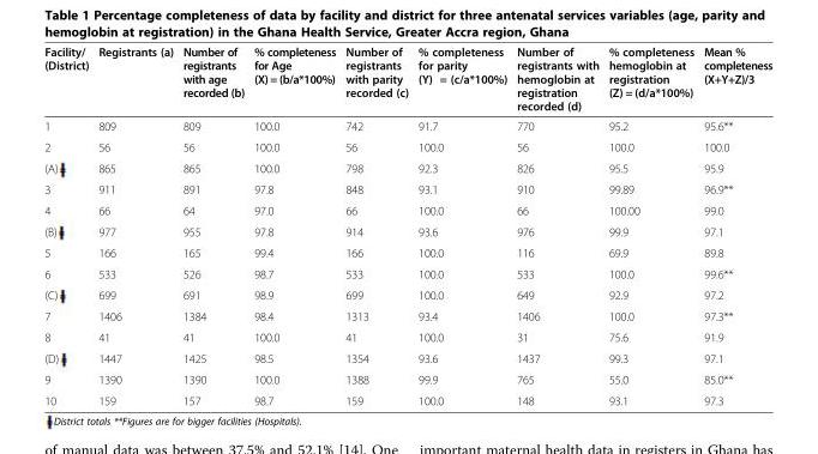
<table><thead><tr><td>Facility/ (District)</td><td>Registrants (a)</td><td>Number of registrants with age recorded (b)</td><td>% completeness for Age (X) = (b/a*100%)</td><td>Number of registrants with parity recorded (c)</td><td>% completeness for parity (Y) = (c/a*100%)</td><td>Number of registrants with hemoglobin at registration recorded (d)</td><td>% completeness hemoglobin at registration (Z) = (d/a*100%)</td><td>Mean % completeness (X+Y+Z)/3</td></tr></thead><tbody><tr><td>1</td><td>809</td><td>809</td><td>100.0</td><td>742</td><td>91.7</td><td>770</td><td>95.2</td><td>95.6**</td></tr><tr><td>2</td><td>56</td><td>56</td><td>100.0</td><td>56</td><td>100.0</td><td>56</td><td>100.0</td><td>100.0</td></tr><tr><td>(A)</td><td>865</td><td>865</td><td>100.0</td><td>798</td><td>92.3</td><td>826</td><td>95.5</td><td>95.9</td></tr><tr><td>3</td><td>911</td><td>891</td><td>97.8</td><td>848</td><td>93.1</td><td>910</td><td>99.89</td><td>96.9**</td></tr><tr><td>4</td><td>66</td><td>64</td><td>97.0</td><td>66</td><td>100.0</td><td>66</td><td>100.00</td><td>99.0</td></tr><tr><td>(B)</td><td>977</td><td>955</td><td>97.8</td><td>914</td><td>93.6</td><td>976</td><td>99.9</td><td>97.1</td></tr><tr><td>5</td><td>166</td><td>165</td><td>99.4</td><td>166</td><td>100.0</td><td>116</td><td>69.9</td><td>89.8</td></tr><tr><td>6</td><td>533</td><td>526</td><td>98.7</td><td>533</td><td>100.0</td><td>533</td><td>100.0</td><td>99.6**</td></tr><tr><td>(C)</td><td>699</td><td>691</td><td>98.9</td><td>699</td><td>100.0</td><td>649</td><td>92.9</td><td>97.2</td></tr><tr><td>7</td><td>1406</td><td>1384</td><td>98.4</td><td>1313</td><td>93.4</td><td>1406</td><td>100.0</td><td>97.3**</td></tr><tr><td>8</td><td>41</td><td>41</td><td>100.0</td><td>41</td><td>100.0</td><td>31</td><td>75.6</td><td>91.9</td></tr><tr><td>(D)</td><td>1447</td><td>1425</td><td>98.5</td><td>1354</td><td>93.6</td><td>1437</td><td>99.3</td><td>97.1</td></tr><tr><td>9</td><td>1390</td><td>1390</td><td>100.0</td><td>1388</td><td>99.9</td><td>765</td><td>55.0</td><td>85.0**</td></tr><tr><td>10</td><td>159</td><td>157</td><td>98.7</td><td>159</td><td>100.0</td><td>148</td><td>93.1</td><td>97.3</td></tr></tbody></table>